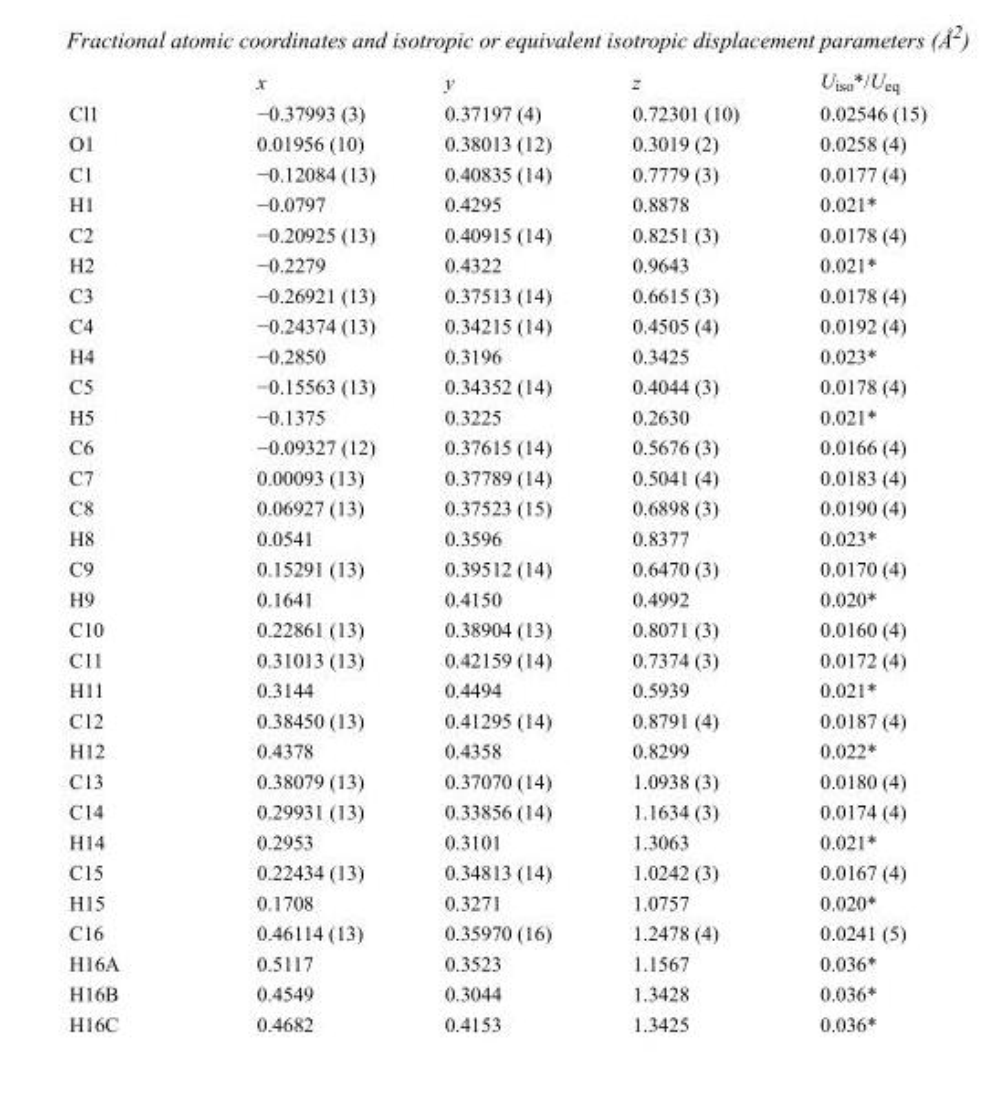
<table><thead><tr><td></td><td>x</td><td>y</td><td>z</td><td>U<sub>iso</sub>*/U<sub>eq</sub></td></tr></thead><tbody><tr><td>Cl1</td><td>−0.37993 (3)</td><td>0.37197 (4)</td><td>0.72301 (10)</td><td>0.02546 (15)</td></tr><tr><td>O1</td><td>0.01956 (10)</td><td>0.38013 (12)</td><td>0.3019 (2)</td><td>0.0258 (4)</td></tr><tr><td>C1</td><td>−0.12084 (13)</td><td>0.40835 (14)</td><td>0.7779 (3)</td><td>0.0177 (4)</td></tr><tr><td>H1</td><td>−0.0797</td><td>0.4295</td><td>0.8878</td><td>0.021*</td></tr><tr><td>C2</td><td>−0.20925 (13)</td><td>0.40915 (14)</td><td>0.8251 (3)</td><td>0.0178 (4)</td></tr><tr><td>H2</td><td>−0.2279</td><td>0.4322</td><td>0.9643</td><td>0.021*</td></tr><tr><td>C3</td><td>−0.26921 (13)</td><td>0.37513 (14)</td><td>0.6615 (3)</td><td>0.0178 (4)</td></tr><tr><td>C4</td><td>−0.24374 (13)</td><td>0.34215 (14)</td><td>0.4505 (4)</td><td>0.0192 (4)</td></tr><tr><td>H4</td><td>−0.2850</td><td>0.3196</td><td>0.3425</td><td>0.023*</td></tr><tr><td>C5</td><td>−0.15563 (13)</td><td>0.34352 (14)</td><td>0.4044 (3)</td><td>0.0178 (4)</td></tr><tr><td>H5</td><td>−0.1375</td><td>0.3225</td><td>0.2630</td><td>0.021*</td></tr><tr><td>C6</td><td>−0.09327 (12)</td><td>0.37615 (14)</td><td>0.5676 (3)</td><td>0.0166 (4)</td></tr><tr><td>C7</td><td>0.00093 (13)</td><td>0.37789 (14)</td><td>0.5041 (4)</td><td>0.0183 (4)</td></tr><tr><td>C8</td><td>0.06927 (13)</td><td>0.37523 (15)</td><td>0.6898 (3)</td><td>0.0190 (4)</td></tr><tr><td>H8</td><td>0.0541</td><td>0.3596</td><td>0.8377</td><td>0.023*</td></tr><tr><td>C9</td><td>0.15291 (13)</td><td>0.39512 (14)</td><td>0.6470 (3)</td><td>0.0170 (4)</td></tr><tr><td>H9</td><td>0.1641</td><td>0.4150</td><td>0.4992</td><td>0.020*</td></tr><tr><td>C10</td><td>0.22861 (13)</td><td>0.38904 (13)</td><td>0.8071 (3)</td><td>0.0160 (4)</td></tr><tr><td>C11</td><td>0.31013 (13)</td><td>0.42159 (14)</td><td>0.7374 (3)</td><td>0.0172 (4)</td></tr><tr><td>H11</td><td>0.3144</td><td>0.4494</td><td>0.5939</td><td>0.021*</td></tr><tr><td>C12</td><td>0.38450 (13)</td><td>0.41295 (14)</td><td>0.8791 (4)</td><td>0.0187 (4)</td></tr><tr><td>H12</td><td>0.4378</td><td>0.4358</td><td>0.8299</td><td>0.022*</td></tr><tr><td>C13</td><td>0.38079 (13)</td><td>0.37070 (14)</td><td>1.0938 (3)</td><td>0.0180 (4)</td></tr><tr><td>C14</td><td>0.29931 (13)</td><td>0.33856 (14)</td><td>1.1634 (3)</td><td>0.0174 (4)</td></tr><tr><td>H14</td><td>0.2953</td><td>0.3101</td><td>1.3063</td><td>0.021*</td></tr><tr><td>C15</td><td>0.22434 (13)</td><td>0.34813 (14)</td><td>1.0242 (3)</td><td>0.0167 (4)</td></tr><tr><td>H15</td><td>0.1708</td><td>0.3271</td><td>1.0757</td><td>0.020*</td></tr><tr><td>C16</td><td>0.46114 (13)</td><td>0.35970 (16)</td><td>1.2478 (4)</td><td>0.0241 (5)</td></tr><tr><td>H16A</td><td>0.5117</td><td>0.3523</td><td>1.1567</td><td>0.036*</td></tr><tr><td>H16B</td><td>0.4549</td><td>0.3044</td><td>1.3428</td><td>0.036*</td></tr><tr><td>H16C</td><td>0.4682</td><td>0.4153</td><td>1.3425</td><td>0.036*</td></tr></tbody></table>